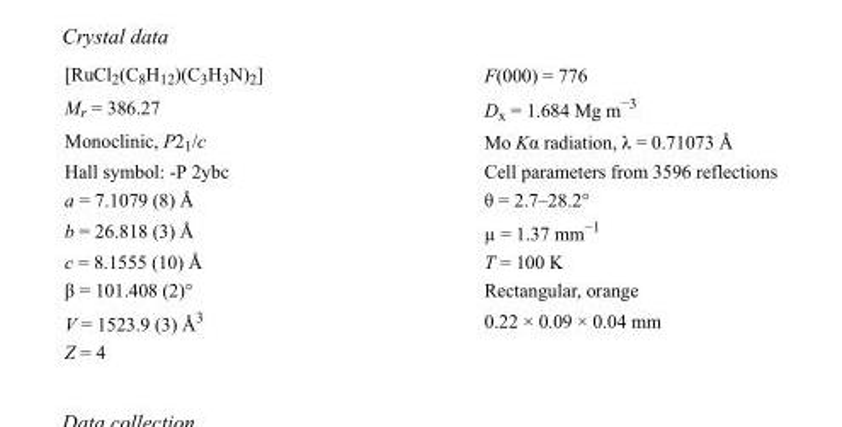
<table><tbody><tr><td>[RuCl<sub>2</sub>(C<sub>8</sub>H<sub>12</sub>)(C<sub>3</sub>H<sub>3</sub>N)<sub>2</sub>]</td><td>F(000) = 776</td></tr><tr><td>M<sub>r</sub> = 386.27</td><td>D<sub>x</sub> = 1.684 Mg m<sup>−3</sup></td></tr><tr><td>Monoclinic, P2<sub>1</sub>/c</td><td>Mo Kα radiation, λ = 0.71073 Å</td></tr><tr><td>Hall symbol: -P 2ybc</td><td>Cell parameters from 3596 reflections</td></tr><tr><td>a = 7.1079 (8) Å</td><td>θ = 2.7–28.2°</td></tr><tr><td>b = 26.818 (3) Å</td><td>µ = 1.37 mm<sup>−1</sup></td></tr><tr><td>c = 8.1555 (10) Å</td><td>T = 100 K</td></tr><tr><td>β = 101.408 (2)°</td><td>Rectangular, orange</td></tr><tr><td>V = 1523.9 (3) Å<sup>3</sup></td><td>0.22 × 0.09 × 0.04 mm</td></tr><tr><td>Z = 4</td><td></td></tr></tbody></table>